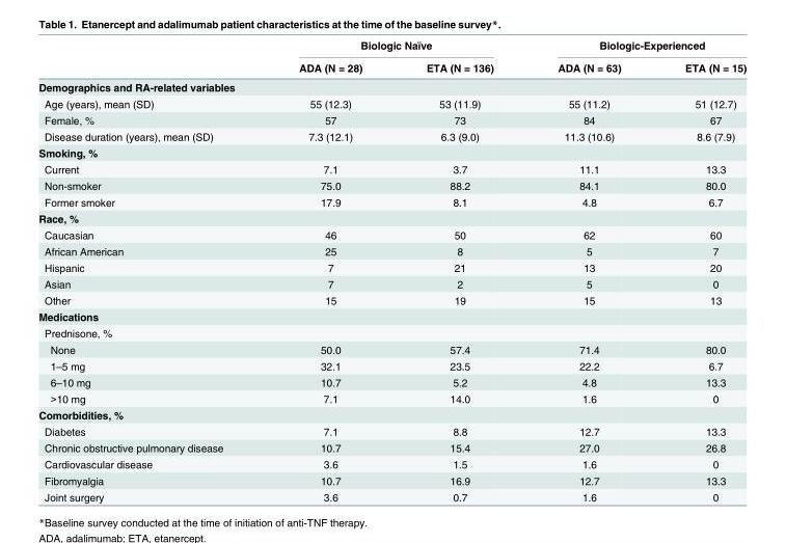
<table><thead><tr><td rowspan="2"></td><td colspan="2">Biologic Naïve</td><td colspan="2">Biologic-Experienced</td></tr><tr><td>ADA (N = 28)</td><td>ETA (N = 136)</td><td>ADA (N = 63)</td><td>ETA (N = 15)</td></tr></thead><tbody><tr><td colspan="5">Demographics and RA-related variables</td></tr><tr><td>Age (years), mean (SD)</td><td>55 (12.3)</td><td>53 (11.9)</td><td>55 (11.2)</td><td>51 (12.7)</td></tr><tr><td>Female, %</td><td>57</td><td>73</td><td>84</td><td>67</td></tr><tr><td>Disease duration (years), mean (SD)</td><td>7.3 (12.1)</td><td>6.3 (9.0)</td><td>11.3 (10.6)</td><td>8.6 (7.9)</td></tr><tr><td colspan="5">Smoking, %</td></tr><tr><td>Current</td><td>7.1</td><td>3.7</td><td>11.1</td><td>13.3</td></tr><tr><td>Non-smoker</td><td>75.0</td><td>88.2</td><td>84.1</td><td>80.0</td></tr><tr><td>Former smoker</td><td>17.9</td><td>8.1</td><td>4.8</td><td>6.7</td></tr><tr><td colspan="5">Race, %</td></tr><tr><td>Caucasian</td><td>46</td><td>50</td><td>62</td><td>60</td></tr><tr><td>African American</td><td>25</td><td>8</td><td>5</td><td>7</td></tr><tr><td>Hispanic</td><td>7</td><td>21</td><td>13</td><td>20</td></tr><tr><td>Asian</td><td>7</td><td>2</td><td>5</td><td>0</td></tr><tr><td>Other</td><td>15</td><td>19</td><td>15</td><td>13</td></tr><tr><td colspan="5">Medications</td></tr><tr><td colspan="5">Prednisone, %</td></tr><tr><td>None</td><td>50.0</td><td>57.4</td><td>71.4</td><td>80.0</td></tr><tr><td>1–5 mg</td><td>32.1</td><td>23.5</td><td>22.2</td><td>6.7</td></tr><tr><td>6–10 mg</td><td>10.7</td><td>5.2</td><td>4.8</td><td>13.3</td></tr><tr><td>&gt;10 mg</td><td>7.1</td><td>14.0</td><td>1.6</td><td>0</td></tr><tr><td colspan="5">Comorbidities, %</td></tr><tr><td>Diabetes</td><td>7.1</td><td>8.8</td><td>12.7</td><td>13.3</td></tr><tr><td>Chronic obstructive pulmonary disease</td><td>10.7</td><td>15.4</td><td>27.0</td><td>26.8</td></tr><tr><td>Cardiovascular disease</td><td>3.6</td><td>1.5</td><td>1.6</td><td>0</td></tr><tr><td>Fibromyalgia</td><td>10.7</td><td>16.9</td><td>12.7</td><td>13.3</td></tr><tr><td>Joint surgery</td><td>3.6</td><td>0.7</td><td>1.6</td><td>0</td></tr></tbody></table>